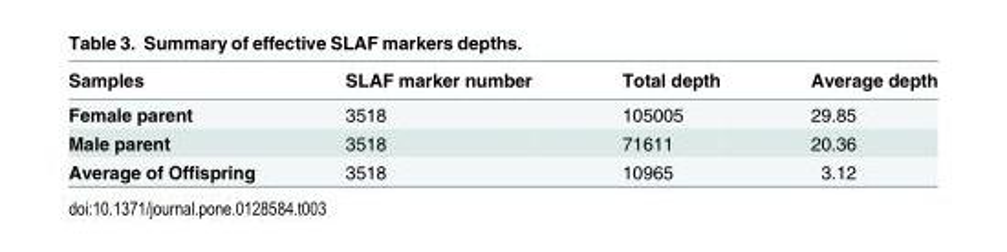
<table><thead><tr><td>Samples</td><td>SLAF marker number</td><td>Total depth</td><td>Average depth</td></tr></thead><tbody><tr><td>Female parent</td><td>3518</td><td>105005</td><td>29.85</td></tr><tr><td>Male parent</td><td>3518</td><td>71611</td><td>20.36</td></tr><tr><td>Average of Offispring</td><td>3518</td><td>10965</td><td>3.12</td></tr></tbody></table>